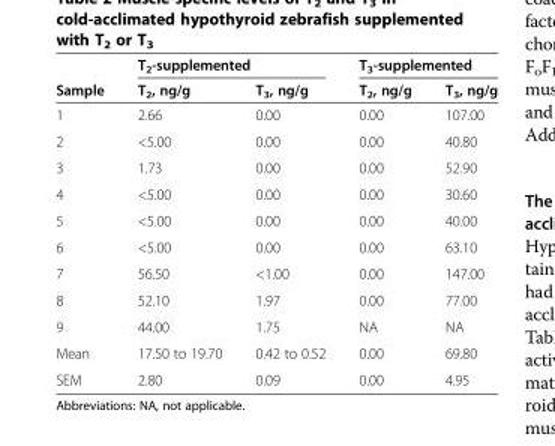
<table><thead><tr><td rowspan="2">Sample</td><td colspan="2">T<sub>2</sub>-supplemented</td><td colspan="2">T<sub>3</sub>-supplemented</td></tr><tr><td>T<sub>2</sub>, ng/g</td><td>T<sub>3</sub>, ng/g</td><td>T<sub>2</sub>, ng/g</td><td>T<sub>3</sub>, ng/g</td></tr></thead><tbody><tr><td>1</td><td>2.66</td><td>0.00</td><td>0.00</td><td>107.00</td></tr><tr><td>2</td><td>&lt;5.00</td><td>0.00</td><td>0.00</td><td>40.80</td></tr><tr><td>3</td><td>1.73</td><td>0.00</td><td>0.00</td><td>52.90</td></tr><tr><td>4</td><td>&lt;5.00</td><td>0.00</td><td>0.00</td><td>30.60</td></tr><tr><td>5</td><td>&lt;5.00</td><td>0.00</td><td>0.00</td><td>40.00</td></tr><tr><td>6</td><td>&lt;5.00</td><td>0.00</td><td>0.00</td><td>63.10</td></tr><tr><td>7</td><td>56.50</td><td>&lt;1.00</td><td>0.00</td><td>147.00</td></tr><tr><td>8</td><td>52.10</td><td>1.97</td><td>0.00</td><td>77.00</td></tr><tr><td>9</td><td>44.00</td><td>1.75</td><td>NA</td><td>NA</td></tr><tr><td>Mean</td><td>17.50 to 19.70</td><td>0.42 to 0.52</td><td>0.00</td><td>69.80</td></tr><tr><td>SEM</td><td>2.80</td><td>0.09</td><td>0.00</td><td>4.95</td></tr></tbody></table>